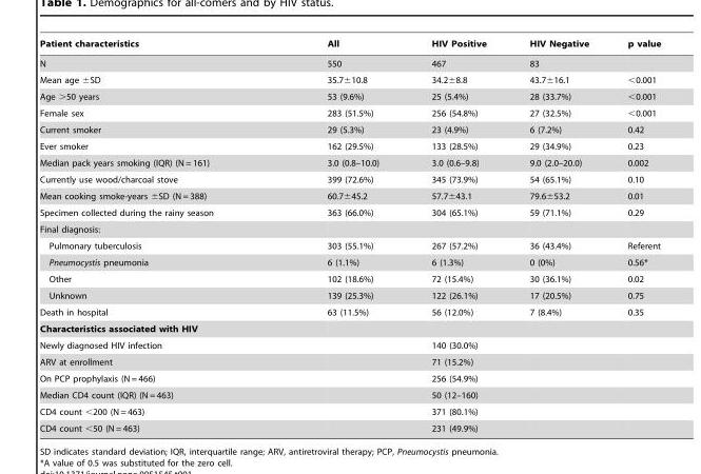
<table><thead><tr><td>Patient characteristics</td><td>All</td><td>HIV Positive</td><td>HIV Negative</td><td>p value</td></tr></thead><tbody><tr><td>N</td><td>550</td><td>467</td><td>83</td><td></td></tr><tr><td>Mean age ±SD</td><td>35.7±10.8</td><td>34.2±8.8</td><td>43.7±16.1</td><td>&lt;0.001</td></tr><tr><td>Age &gt;50 years</td><td>53 (9.6%)</td><td>25 (5.4%)</td><td>28 (33.7%)</td><td>&lt;0.001</td></tr><tr><td>Female sex</td><td>283 (51.5%)</td><td>256 (54.8%)</td><td>27 (32.5%)</td><td>&lt;0.001</td></tr><tr><td>Current smoker</td><td>29 (5.3%)</td><td>23 (4.9%)</td><td>6 (7.2%)</td><td>0.42</td></tr><tr><td>Ever smoker</td><td>162 (29.5%)</td><td>133 (28.5%)</td><td>29 (34.9%)</td><td>0.23</td></tr><tr><td>Median pack years smoking (IQR) (N = 161)</td><td>3.0 (0.8–10.0)</td><td>3.0 (0.6–9.8)</td><td>9.0 (2.0–20.0)</td><td>0.002</td></tr><tr><td>Currently use wood/charcoal stove</td><td>399 (72.6%)</td><td>345 (73.9%)</td><td>54 (65.1%)</td><td>0.10</td></tr><tr><td>Mean cooking smoke-years ±SD (N = 388)</td><td>60.7±45.2</td><td>57.7±43.1</td><td>79.6±53.2</td><td>0.01</td></tr><tr><td>Specimen collected during the rainy season</td><td>363 (66.0%)</td><td>304 (65.1%)</td><td>59 (71.1%)</td><td>0.29</td></tr><tr><td colspan="5">Final diagnosis:</td></tr><tr><td>Pulmonary tuberculosis</td><td>303 (55.1%)</td><td>267 (57.2%)</td><td>36 (43.4%)</td><td>Referent</td></tr><tr><td>Pneumocystis pneumonia</td><td>6 (1.1%)</td><td>6 (1.3%)</td><td>0 (0%)</td><td>0.56*</td></tr><tr><td>Other</td><td>102 (18.6%)</td><td>72 (15.4%)</td><td>30 (36.1%)</td><td>0.02</td></tr><tr><td>Unknown</td><td>139 (25.3%)</td><td>122 (26.1%)</td><td>17 (20.5%)</td><td>0.75</td></tr><tr><td>Death in hospital</td><td>63 (11.5%)</td><td>56 (12.0%)</td><td>7 (8.4%)</td><td>0.35</td></tr><tr><td colspan="5">Characteristics associated with HIV</td></tr><tr><td>Newly diagnosed HIV infection</td><td></td><td>140 (30.0%)</td><td></td><td></td></tr><tr><td>ARV at enrollment</td><td></td><td>71 (15.2%)</td><td></td><td></td></tr><tr><td>On PCP prophylaxis (N = 466)</td><td></td><td>256 (54.9%)</td><td></td><td></td></tr><tr><td>Median CD4 count (IQR) (N = 463)</td><td></td><td>50 (12–160)</td><td></td><td></td></tr><tr><td>CD4 count &lt;200 (N = 463)</td><td></td><td>371 (80.1%)</td><td></td><td></td></tr><tr><td>CD4 count &lt;50 (N = 463)</td><td></td><td>231 (49.9%)</td><td></td><td></td></tr></tbody></table>